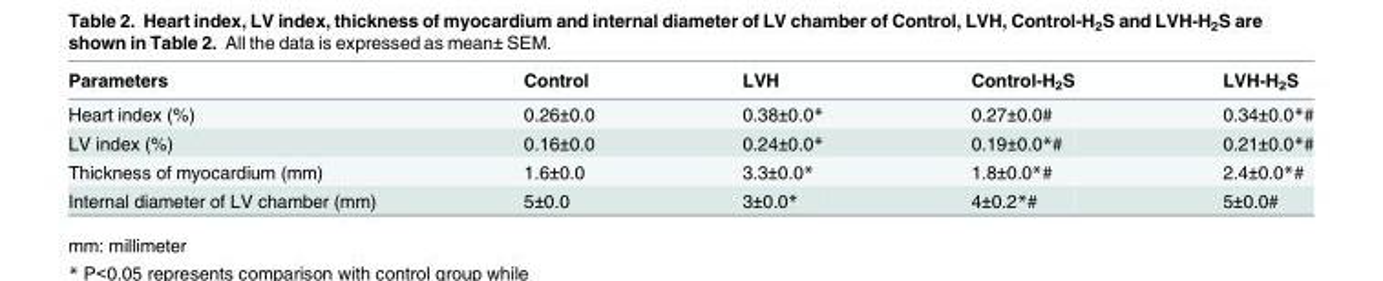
<table><thead><tr><td>Parameters</td><td>Control</td><td>LVH</td><td>Control-H<sub>2</sub>S</td><td>LVH-H<sub>2</sub>S</td></tr></thead><tbody><tr><td>Heart index (%)</td><td>0.26±0.0</td><td>0.38±0.0*</td><td>0.27±0.0#</td><td>0.34±0.0*#</td></tr><tr><td>LV index (%)</td><td>0.16±0.0</td><td>0.24±0.0*</td><td>0.19±0.0*#</td><td>0.21±0.0*#</td></tr><tr><td>Thickness of myocardium (mm)</td><td>1.6±0.0</td><td>3.3±0.0*</td><td>1.8±0.0*#</td><td>2.4±0.0*#</td></tr><tr><td>Internal diameter of LV chamber (mm)</td><td>5±0.0</td><td>3±0.0*</td><td>4±0.2*#</td><td>5±0.0#</td></tr></tbody></table>